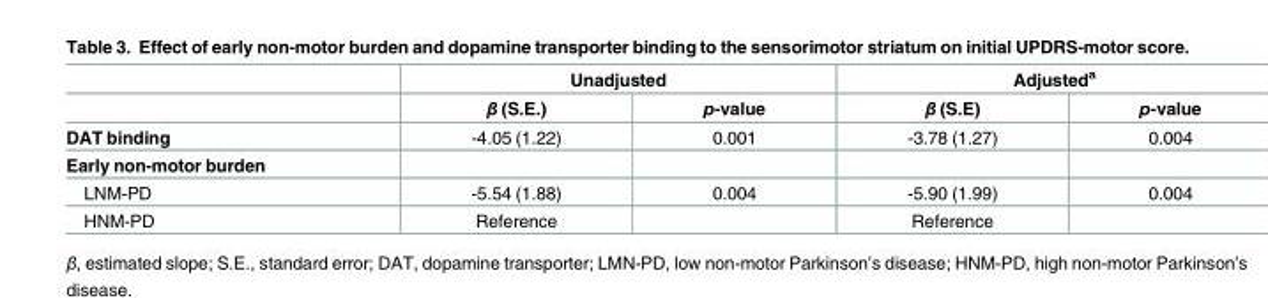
<table><thead><tr><td rowspan="2"></td><td colspan="2">Unadjusted</td><td colspan="2">Adjusted<sup>a</sup></td></tr><tr><td>β (S.E.)</td><td>p-value</td><td>β (S.E)</td><td>p-value</td></tr></thead><tbody><tr><td>DAT binding</td><td>-4.05 (1.22)</td><td>0.001</td><td>-3.78 (1.27)</td><td>0.004</td></tr><tr><td colspan="5">Early non-motor burden</td></tr><tr><td>LNM-PD</td><td>-5.54 (1.88)</td><td>0.004</td><td>-5.90 (1.99)</td><td>0.004</td></tr><tr><td>HNM-PD</td><td>Reference</td><td></td><td>Reference</td><td></td></tr></tbody></table>